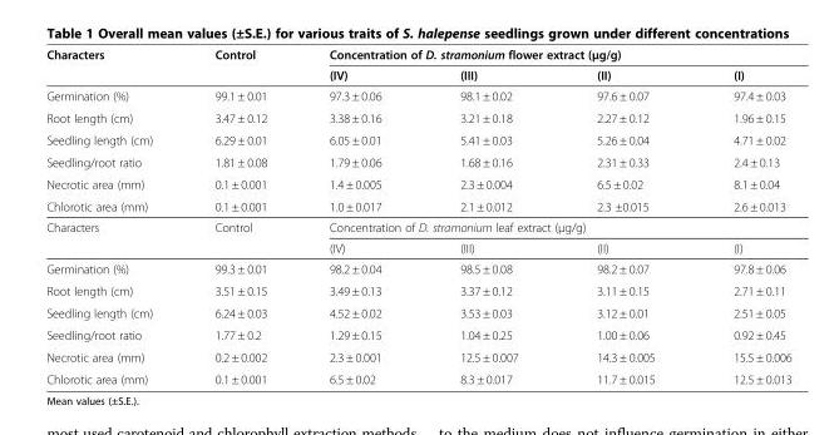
<table><thead><tr><td rowspan="2">Characters</td><td rowspan="2">Control</td><td colspan="4">Concentration of D. stramonium flower extract (μg/g)</td></tr><tr><td>(IV)</td><td>(III)</td><td>(II)</td><td>(I)</td></tr></thead><tbody><tr><td>Germination (%)</td><td>99.1 ± 0.01</td><td>97.3 ± 0.06</td><td>98.1 ± 0.02</td><td>97.6 ± 0.07</td><td>97.4 ± 0.03</td></tr><tr><td>Root length (cm)</td><td>3.47 ± 0.12</td><td>3.38 ± 0.16</td><td>3.21 ± 0.18</td><td>2.27 ± 0.12</td><td>1.96 ± 0.15</td></tr><tr><td>Seedling length (cm)</td><td>6.29 ± 0.01</td><td>6.05 ± 0.01</td><td>5.41 ± 0.03</td><td>5.26 ± 0.04</td><td>4.71 ± 0.02</td></tr><tr><td>Seedling/root ratio</td><td>1.81 ± 0.08</td><td>1.79 ± 0.06</td><td>1.68 ± 0.16</td><td>2.31 ± 0.33</td><td>2.4 ± 0.13</td></tr><tr><td>Necrotic area (mm)</td><td>0.1 ± 0.001</td><td>1.4 ± 0.005</td><td>2.3 ± 0.004</td><td>6.5 ± 0.02</td><td>8.1 ± 0.04</td></tr><tr><td>Chlorotic area (mm)</td><td>0.1 ± 0.001</td><td>1.0 ± 0.017</td><td>2.1 ± 0.012</td><td>2.3 ±0.015</td><td>2.6 ± 0.013</td></tr><tr><td rowspan="2">Characters</td><td rowspan="2">Control</td><td colspan="4">Concentration of D. stramonium leaf extract (μg/g)</td></tr><tr><td>(IV)</td><td>(III)</td><td>(II)</td><td>(I)</td></tr><tr><td>Germination (%)</td><td>99.3 ± 0.01</td><td>98.2 ± 0.04</td><td>98.5 ± 0.08</td><td>98.2 ± 0.07</td><td>97.8 ± 0.06</td></tr><tr><td>Root length (cm)</td><td>3.51 ± 0.15</td><td>3.49 ± 0.13</td><td>3.37 ± 0.12</td><td>3.11 ± 0.15</td><td>2.71 ± 0.11</td></tr><tr><td>Seedling length (cm)</td><td>6.24 ± 0.03</td><td>4.52 ± 0.02</td><td>3.53 ± 0.03</td><td>3.12 ± 0.01</td><td>2.51 ± 0.05</td></tr><tr><td>Seedling/root ratio</td><td>1.77 ± 0.2</td><td>1.29 ± 0.15</td><td>1.04 ± 0.25</td><td>1.00 ± 0.06</td><td>0.92 ± 0.45</td></tr><tr><td>Necrotic area (mm)</td><td>0.2 ± 0.002</td><td>2.3 ± 0.001</td><td>12.5 ± 0.007</td><td>14.3 ± 0.005</td><td>15.5 ± 0.006</td></tr><tr><td>Chlorotic area (mm)</td><td>0.1 ± 0.001</td><td>6.5 ± 0.02</td><td>8.3 ± 0.017</td><td>11.7 ± 0.015</td><td>12.5 ± 0.013</td></tr></tbody></table>